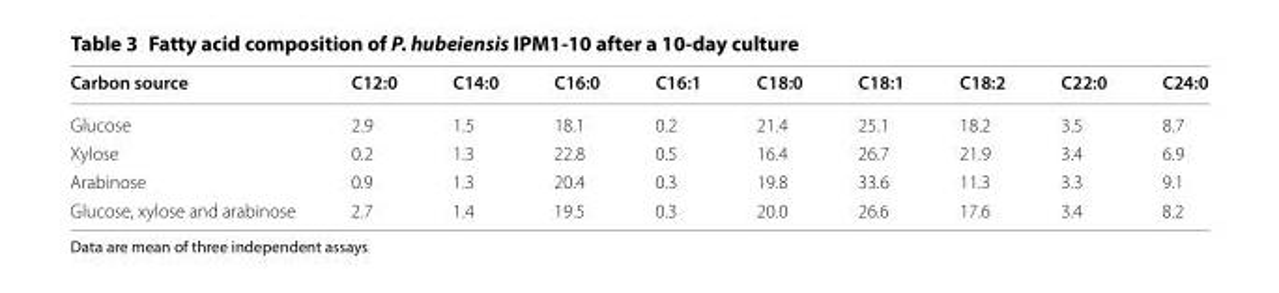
<table><thead><tr><td>Carbon source</td><td>C12:0</td><td>C14:0</td><td>C16:0</td><td>C16:1</td><td>C18:0</td><td>C18:1</td><td>C18:2</td><td>C22:0</td><td>C24:0</td></tr></thead><tbody><tr><td>Glucose</td><td>2.9</td><td>1.5</td><td>18.1</td><td>0.2</td><td>21.4</td><td>25.1</td><td>18.2</td><td>3.5</td><td>8.7</td></tr><tr><td>Xylose</td><td>0.2</td><td>1.3</td><td>22.8</td><td>0.5</td><td>16.4</td><td>26.7</td><td>21.9</td><td>3.4</td><td>6.9</td></tr><tr><td>Arabinose</td><td>0.9</td><td>1.3</td><td>20.4</td><td>0.3</td><td>19.8</td><td>33.6</td><td>11.3</td><td>3.3</td><td>9.1</td></tr><tr><td>Glucose, xylose and arabinose</td><td>2.7</td><td>1.4</td><td>19.5</td><td>0.3</td><td>20.0</td><td>26.6</td><td>17.6</td><td>3.4</td><td>8.2</td></tr></tbody></table>